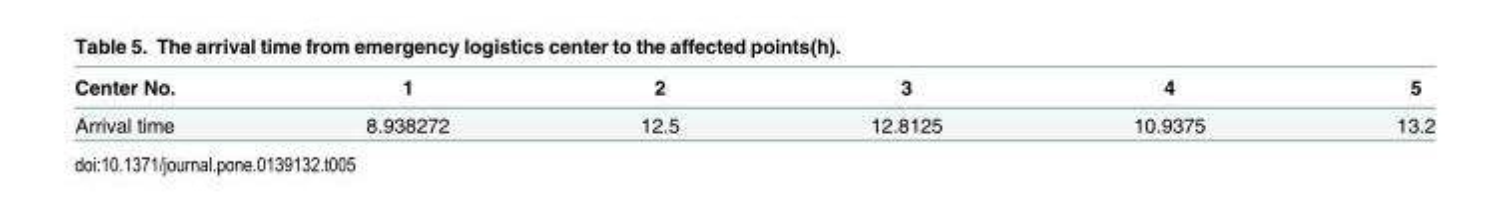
<table><thead><tr><td>Center No.</td><td>1</td><td>2</td><td>3</td><td>4</td><td>5</td></tr></thead><tbody><tr><td>Arrival time</td><td>8.938272</td><td>12.5</td><td>12.8125</td><td>10.9375</td><td>13.2</td></tr></tbody></table>